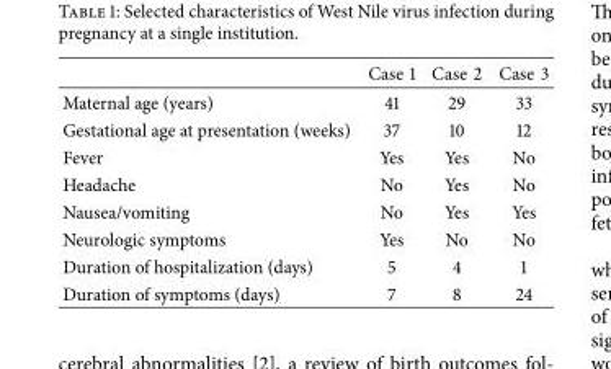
<table><thead><tr><td></td><td>Case 1</td><td>Case 2</td><td>Case 3</td></tr></thead><tbody><tr><td>Maternal age (years)</td><td>41</td><td>29</td><td>33</td></tr><tr><td>Gestational age at presentation (weeks)</td><td>37</td><td>10</td><td>12</td></tr><tr><td>Fever</td><td>Yes</td><td>Yes</td><td>No</td></tr><tr><td>Headache</td><td>No</td><td>Yes</td><td>No</td></tr><tr><td>Nausea/vomiting</td><td>No</td><td>Yes</td><td>Yes</td></tr><tr><td>Neurologic symptoms</td><td>Yes</td><td>No</td><td>No</td></tr><tr><td>Duration of hospitalization (days)</td><td>5</td><td>4</td><td>1</td></tr><tr><td>Duration of symptoms (days)</td><td>7</td><td>8</td><td>24</td></tr></tbody></table>